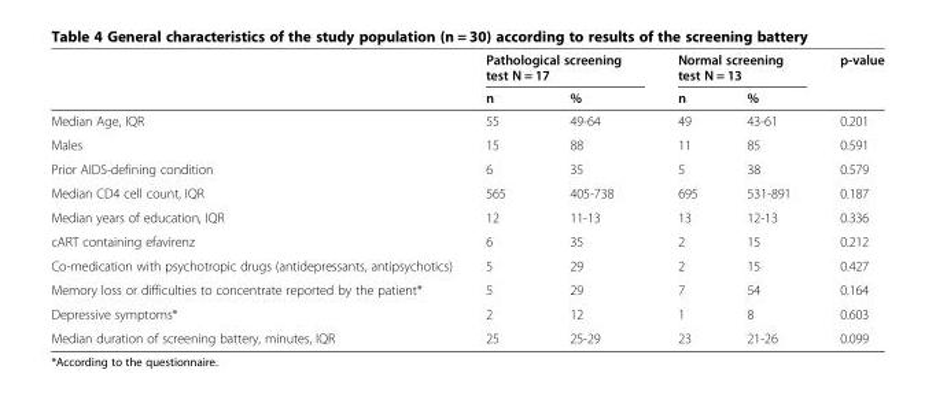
<table><thead><tr><td rowspan="2"></td><td colspan="2">Pathological screening test N = 17</td><td colspan="2">Normal screening test N = 13</td><td rowspan="2">p-value</td></tr><tr><td>n</td><td>%</td><td>n</td><td>%</td></tr></thead><tbody><tr><td>Median Age, IQR</td><td>55</td><td>49-64</td><td>49</td><td>43-61</td><td>0.201</td></tr><tr><td>Males</td><td>15</td><td>88</td><td>11</td><td>85</td><td>0.591</td></tr><tr><td>Prior AIDS-defining condition</td><td>6</td><td>35</td><td>5</td><td>38</td><td>0.579</td></tr><tr><td>Median CD4 cell count, IQR</td><td>565</td><td>405-738</td><td>695</td><td>531-891</td><td>0.187</td></tr><tr><td>Median years of education, IQR</td><td>12</td><td>11-13</td><td>13</td><td>12-13</td><td>0.336</td></tr><tr><td>cART containing efavirenz</td><td>6</td><td>35</td><td>2</td><td>15</td><td>0.212</td></tr><tr><td>Co-medication with psychotropic drugs (antidepressants, antipsychotics)</td><td>5</td><td>29</td><td>2</td><td>15</td><td>0.427</td></tr><tr><td>Memory loss or difficulties to concentrate reported by the patient*</td><td>5</td><td>29</td><td>7</td><td>54</td><td>0.164</td></tr><tr><td>Depressive symptoms*</td><td>2</td><td>12</td><td>1</td><td>8</td><td>0.603</td></tr><tr><td>Median duration of screening battery, minutes, IQR</td><td>25</td><td>25-29</td><td>23</td><td>21-26</td><td>0.099</td></tr></tbody></table>